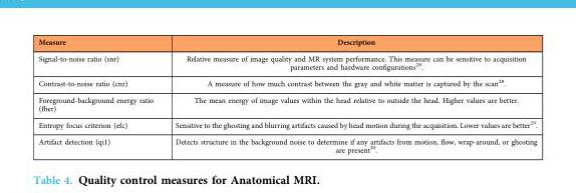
<table><thead><tr><td>Measure</td><td>Description</td></tr></thead><tbody><tr><td>Signal-to-noise ratio (snr)</td><td>Relative measure of image quality and MR system performance. This measure can be sensitive to acquisition parameters and hardware configurations<sup>28</sup>.</td></tr><tr><td>Contrast-to-noise ratio (cnr)</td><td>A measure of how much contrast between the gray and white matter is captured by the scan<sup>28</sup>.</td></tr><tr><td>Foreground-background energy ratio (fber)</td><td>The mean energy of image values within the head relative to outside the head. Higher values are better.</td></tr><tr><td>Entropy focus criterion (efc)</td><td>Sensitive to the ghosting and blurring artifacts caused by head motion during the acquisition. Lower values are better<sup>29</sup>.</td></tr><tr><td>Artifact detection (qi1)</td><td>Detects structure in the background noise to determine if any artifacts from motion, flow, wrap-around, or ghosting are present<sup>30</sup>.</td></tr></tbody></table>